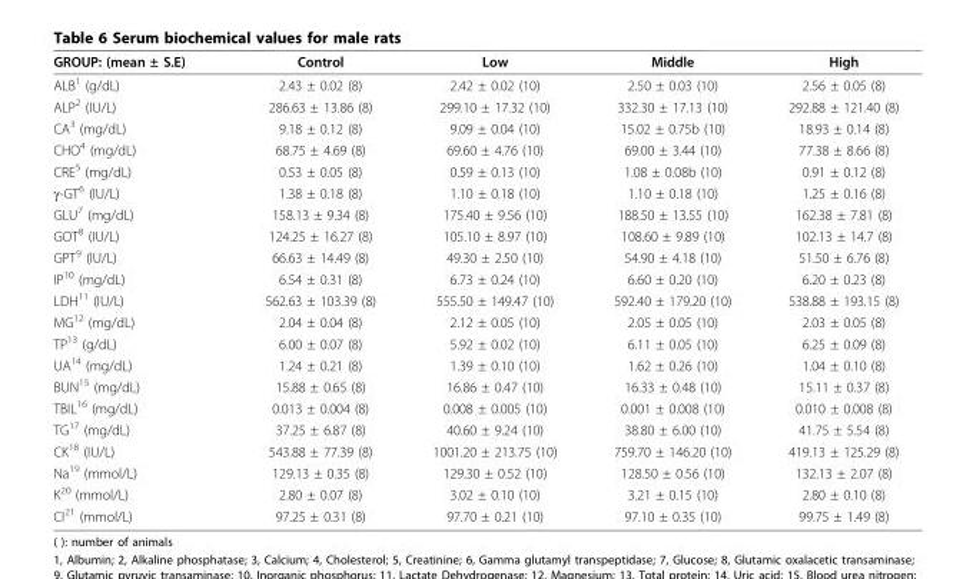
<table><thead><tr><td>GROUP: (mean ± S.E)</td><td>Control</td><td>Low</td><td>Middle</td><td>High</td></tr></thead><tbody><tr><td>ALB<sup>1</sup> (g/dL)</td><td>2.43 ± 0.02 (8)</td><td>2.42 ± 0.02 (10)</td><td>2.50 ± 0.03 (10)</td><td>2.56 ± 0.05 (8)</td></tr><tr><td>ALP<sup>2</sup> (IU/L)</td><td>286.63 ± 13.86 (8)</td><td>299.10 ± 17.32 (10)</td><td>332.30 ± 17.13 (10)</td><td>292.88 ± 121.40 (8)</td></tr><tr><td>CA<sup>3</sup> (mg/dL)</td><td>9.18 ± 0.12 (8)</td><td>9.09 ± 0.04 (10)</td><td>15.02 ± 0.75b (10)</td><td>18.93 ± 0.14 (8)</td></tr><tr><td>CHO<sup>4</sup> (mg/dL)</td><td>68.75 ± 4.69 (8)</td><td>69.60 ± 4.76 (10)</td><td>69.00 ± 3.44 (10)</td><td>77.38 ± 8.66 (8)</td></tr><tr><td>CRE<sup>5</sup> (mg/dL)</td><td>0.53 ± 0.05 (8)</td><td>0.59 ± 0.13 (10)</td><td>1.08 ± 0.08b (10)</td><td>0.91 ± 0.12 (8)</td></tr><tr><td>γ-GT<sup>6</sup> (IU/L)</td><td>1.38 ± 0.18 (8)</td><td>1.10 ± 0.18 (10)</td><td>1.10 ± 0.18 (10)</td><td>1.25 ± 0.16 (8)</td></tr><tr><td>GLU<sup>7</sup> (mg/dL)</td><td>158.13 ± 9.34 (8)</td><td>175.40 ± 9.56 (10)</td><td>188.50 ± 13.55 (10)</td><td>162.38 ± 7.81 (8)</td></tr><tr><td>GOT<sup>8</sup> (IU/L)</td><td>124.25 ± 16.27 (8)</td><td>105.10 ± 8.97 (10)</td><td>108.60 ± 9.89 (10)</td><td>102.13 ± 14.7 (8)</td></tr><tr><td>GPT<sup>9</sup> (IU/L)</td><td>66.63 ± 14.49 (8)</td><td>49.30 ± 2.50 (10)</td><td>54.90 ± 4.18 (10)</td><td>51.50 ± 6.76 (8)</td></tr><tr><td>IP<sup>10</sup> (mg/dL)</td><td>6.54 ± 0.31 (8)</td><td>6.73 ± 0.24 (10)</td><td>6.60 ± 0.20 (10)</td><td>6.20 ± 0.23 (8)</td></tr><tr><td>LDH<sup>11</sup> (IU/L)</td><td>562.63 ± 103.39 (8)</td><td>555.50 ± 149.47 (10)</td><td>592.40 ± 179.20 (10)</td><td>538.88 ± 193.15 (8)</td></tr><tr><td>MG<sup>12</sup> (mg/dL)</td><td>2.04 ± 0.04 (8)</td><td>2.12 ± 0.05 (10)</td><td>2.05 ± 0.05 (10)</td><td>2.03 ± 0.05 (8)</td></tr><tr><td>TP<sup>13</sup> (g/dL)</td><td>6.00 ± 0.07 (8)</td><td>5.92 ± 0.02 (10)</td><td>6.11 ± 0.05 (10)</td><td>6.25 ± 0.09 (8)</td></tr><tr><td>UA<sup>14</sup> (mg/dL)</td><td>1.24 ± 0.21 (8)</td><td>1.39 ± 0.10 (10)</td><td>1.62 ± 0.26 (10)</td><td>1.04 ± 0.10 (8)</td></tr><tr><td>BUN<sup>15</sup> (mg/dL)</td><td>15.88 ± 0.65 (8)</td><td>16.86 ± 0.47 (10)</td><td>16.33 ± 0.48 (10)</td><td>15.11 ± 0.37 (8)</td></tr><tr><td>TBIL<sup>16</sup> (mg/dL)</td><td>0.013 ± 0.004 (8)</td><td>0.008 ± 0.005 (10)</td><td>0.001 ± 0.008 (10)</td><td>0.010 ± 0.008 (8)</td></tr><tr><td>TG<sup>17</sup> (mg/dL)</td><td>37.25 ± 6.87 (8)</td><td>40.60 ± 9.24 (10)</td><td>38.80 ± 6.00 (10)</td><td>41.75 ± 5.54 (8)</td></tr><tr><td>CK<sup>18</sup> (IU/L)</td><td>543.88 ± 77.39 (8)</td><td>1001.20 ± 213.75 (10)</td><td>759.70 ± 146.20 (10)</td><td>419.13 ± 125.29 (8)</td></tr><tr><td>Na<sup>19</sup> (mmol/L)</td><td>129.13 ± 0.35 (8)</td><td>129.30 ± 0.52 (10)</td><td>128.50 ± 0.56 (10)</td><td>132.13 ± 2.07 (8)</td></tr><tr><td>K<sup>20</sup> (mmol/L)</td><td>2.80 ± 0.07 (8)</td><td>3.02 ± 0.10 (10)</td><td>3.21 ± 0.15 (10)</td><td>2.80 ± 0.10 (8)</td></tr><tr><td>Cl<sup>21</sup> (mmol/L)</td><td>97.25 ± 0.31 (8)</td><td>97.70 ± 0.21 (10)</td><td>97.10 ± 0.35 (10)</td><td>99.75 ± 1.49 (8)</td></tr></tbody></table>